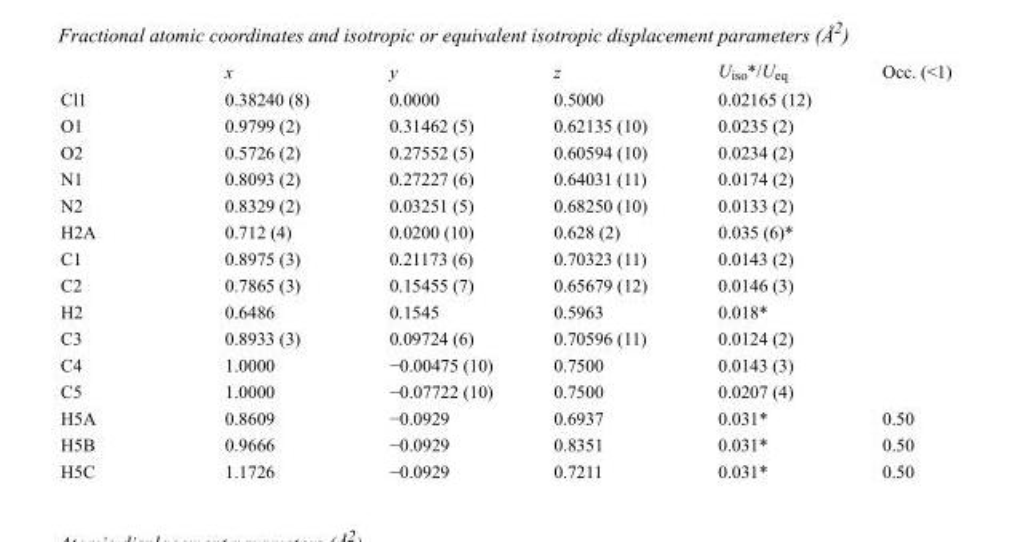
<table><thead><tr><td></td><td>x</td><td>y</td><td>z</td><td>U<sub>iso</sub>*/U<sub>eq</sub></td><td>Occ. (&lt;1)</td></tr></thead><tbody><tr><td>Cl1</td><td>0.38240 (8)</td><td>0.0000</td><td>0.5000</td><td>0.02165 (12)</td><td></td></tr><tr><td>O1</td><td>0.9799 (2)</td><td>0.31462 (5)</td><td>0.62135 (10)</td><td>0.0235 (2)</td><td></td></tr><tr><td>O2</td><td>0.5726 (2)</td><td>0.27552 (5)</td><td>0.60594 (10)</td><td>0.0234 (2)</td><td></td></tr><tr><td>N1</td><td>0.8093 (2)</td><td>0.27227 (6)</td><td>0.64031 (11)</td><td>0.0174 (2)</td><td></td></tr><tr><td>N2</td><td>0.8329 (2)</td><td>0.03251 (5)</td><td>0.68250 (10)</td><td>0.0133 (2)</td><td></td></tr><tr><td>H2A</td><td>0.712 (4)</td><td>0.0200 (10)</td><td>0.628 (2)</td><td>0.035 (6)*</td><td></td></tr><tr><td>C1</td><td>0.8975 (3)</td><td>0.21173 (6)</td><td>0.70323 (11)</td><td>0.0143 (2)</td><td></td></tr><tr><td>C2</td><td>0.7865 (3)</td><td>0.15455 (7)</td><td>0.65679 (12)</td><td>0.0146 (3)</td><td></td></tr><tr><td>H2</td><td>0.6486</td><td>0.1545</td><td>0.5963</td><td>0.018*</td><td></td></tr><tr><td>C3</td><td>0.8933 (3)</td><td>0.09724 (6)</td><td>0.70596 (11)</td><td>0.0124 (2)</td><td></td></tr><tr><td>C4</td><td>1.0000</td><td>−0.00475 (10)</td><td>0.7500</td><td>0.0143 (3)</td><td></td></tr><tr><td>C5</td><td>1.0000</td><td>−0.07722 (10)</td><td>0.7500</td><td>0.0207 (4)</td><td></td></tr><tr><td>H5A</td><td>0.8609</td><td>−0.0929</td><td>0.6937</td><td>0.031*</td><td>0.50</td></tr><tr><td>H5B</td><td>0.9666</td><td>−0.0929</td><td>0.8351</td><td>0.031*</td><td>0.50</td></tr><tr><td>H5C</td><td>1.1726</td><td>−0.0929</td><td>0.7211</td><td>0.031*</td><td>0.50</td></tr></tbody></table>